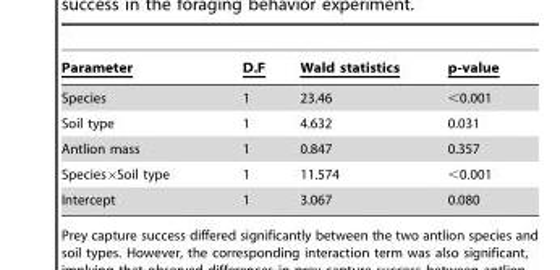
<table><thead><tr><td>Parameter</td><td>D.F</td><td>Wald statistics</td><td>p-value</td></tr></thead><tbody><tr><td>Species</td><td>1</td><td>23.46</td><td>&lt;0.001</td></tr><tr><td>Soil type</td><td>1</td><td>4.632</td><td>0.031</td></tr><tr><td>Antlion mass</td><td>1</td><td>0.847</td><td>0.357</td></tr><tr><td>Species×Soil type</td><td>1</td><td>11.574</td><td>&lt;0.001</td></tr><tr><td>Intercept</td><td>1</td><td>3.067</td><td>0.080</td></tr></tbody></table>